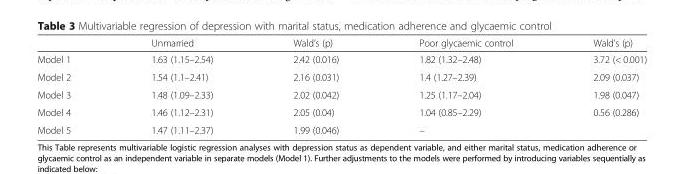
<table><thead><tr><td></td><td>Unmarried</td><td>Wald’s (p)</td><td>Poor glycaemic control</td><td>Wald’s (p)</td></tr></thead><tbody><tr><td>Model 1</td><td>1.63 (1.15–2.54)</td><td>2.42 (0.016)</td><td>1.82 (1.32–2.48)</td><td>3.72 (&lt; 0.001)</td></tr><tr><td>Model 2</td><td>1.54 (1.1–2.41)</td><td>2.16 (0.031)</td><td>1.4 (1.27–2.39)</td><td>2.09 (0.037)</td></tr><tr><td>Model 3</td><td>1.48 (1.09–2.33)</td><td>2.02 (0.042)</td><td>1.25 (1.17–2.04)</td><td>1.98 (0.047)</td></tr><tr><td>Model 4</td><td>1.46 (1.12–2.31)</td><td>2.05 (0.04)</td><td>1.04 (0.85–2.29)</td><td>0.56 (0.286)</td></tr><tr><td>Model 5</td><td>1.47 (1.11–2.37)</td><td>1.99 (0.046)</td><td>–</td><td></td></tr></tbody></table>